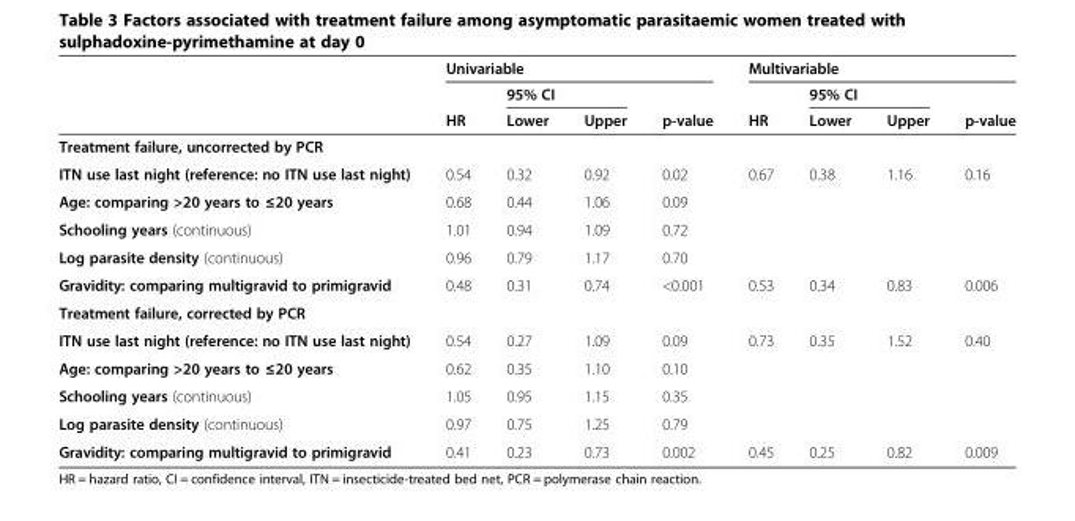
<table><thead><tr><td rowspan="3"></td><td colspan="4">Univariable</td><td colspan="4">Multivariable</td></tr><tr><td rowspan="2">HR</td><td colspan="2">95% CI</td><td rowspan="2">p-value</td><td rowspan="2">HR</td><td colspan="2">95% CI</td><td rowspan="2">p-value</td></tr><tr><td>Lower</td><td>Upper</td><td>Lower</td><td>Upper</td></tr></thead><tbody><tr><td colspan="9">Treatment failure, uncorrected by PCR</td></tr><tr><td>ITN use last night (reference: no ITN use last night)</td><td>0.54</td><td>0.32</td><td>0.92</td><td>0.02</td><td>0.67</td><td>0.38</td><td>1.16</td><td>0.16</td></tr><tr><td>Age: comparing &gt;20 years to ≤20 years</td><td>0.68</td><td>0.44</td><td>1.06</td><td>0.09</td><td></td><td></td><td></td><td></td></tr><tr><td>Schooling years (continuous)</td><td>1.01</td><td>0.94</td><td>1.09</td><td>0.72</td><td></td><td></td><td></td><td></td></tr><tr><td>Log parasite density (continuous)</td><td>0.96</td><td>0.79</td><td>1.17</td><td>0.70</td><td></td><td></td><td></td><td></td></tr><tr><td>Gravidity: comparing multigravid to primigravid</td><td>0.48</td><td>0.31</td><td>0.74</td><td>&lt;0.001</td><td>0.53</td><td>0.34</td><td>0.83</td><td>0.006</td></tr><tr><td colspan="9">Treatment failure, corrected by PCR</td></tr><tr><td>ITN use last night (reference: no ITN use last night)</td><td>0.54</td><td>0.27</td><td>1.09</td><td>0.09</td><td>0.73</td><td>0.35</td><td>1.52</td><td>0.40</td></tr><tr><td>Age: comparing &gt;20 years to ≤20 years</td><td>0.62</td><td>0.35</td><td>1.10</td><td>0.10</td><td></td><td></td><td></td><td></td></tr><tr><td>Schooling years (continuous)</td><td>1.05</td><td>0.95</td><td>1.15</td><td>0.35</td><td></td><td></td><td></td><td></td></tr><tr><td>Log parasite density (continuous)</td><td>0.97</td><td>0.75</td><td>1.25</td><td>0.79</td><td></td><td></td><td></td><td></td></tr><tr><td>Gravidity: comparing multigravid to primigravid</td><td>0.41</td><td>0.23</td><td>0.73</td><td>0.002</td><td>0.45</td><td>0.25</td><td>0.82</td><td>0.009</td></tr></tbody></table>